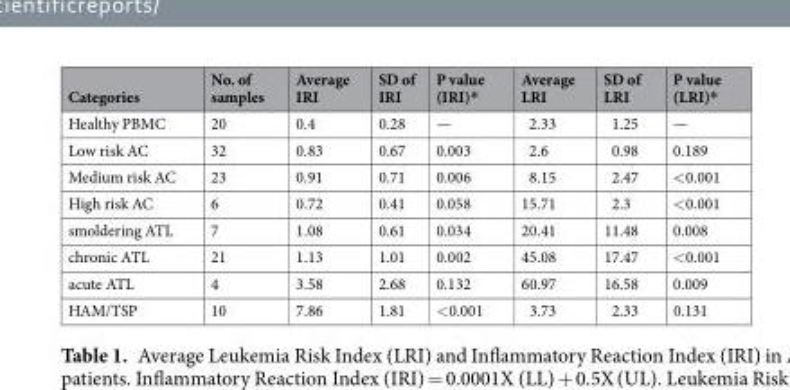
<table><thead><tr><td>Categories</td><td>No. of samples</td><td>Average IRI</td><td>SD of IRI</td><td>P value (IRI)*</td><td>Average LRI</td><td>SD of LRI</td><td>P value (LRI)*</td></tr></thead><tbody><tr><td>Healthy PBMC</td><td>20</td><td>0.4</td><td>0.28</td><td>—</td><td>2.33</td><td>1.25</td><td>—</td></tr><tr><td>Low risk AC</td><td>32</td><td>0.83</td><td>0.67</td><td>0.003</td><td>2.6</td><td>0.98</td><td>0.189</td></tr><tr><td>Medium risk AC</td><td>23</td><td>0.91</td><td>0.71</td><td>0.006</td><td>8.15</td><td>2.47</td><td>&lt;0.001</td></tr><tr><td>High risk AC</td><td>6</td><td>0.72</td><td>0.41</td><td>0.058</td><td>15.71</td><td>2.3</td><td>&lt;0.001</td></tr><tr><td>smoldering ATL</td><td>7</td><td>1.08</td><td>0.61</td><td>0.034</td><td>20.41</td><td>11.48</td><td>0.008</td></tr><tr><td>chronic ATL</td><td>21</td><td>1.13</td><td>1.01</td><td>0.002</td><td>45.08</td><td>17.47</td><td>&lt;0.001</td></tr><tr><td>acute ATL</td><td>4</td><td>3.58</td><td>2.68</td><td>0.132</td><td>60.97</td><td>16.58</td><td>0.009</td></tr><tr><td>HAM/TSP</td><td>10</td><td>7.86</td><td>1.81</td><td>&lt;0.001</td><td>3.73</td><td>2.33</td><td>0.131</td></tr></tbody></table>